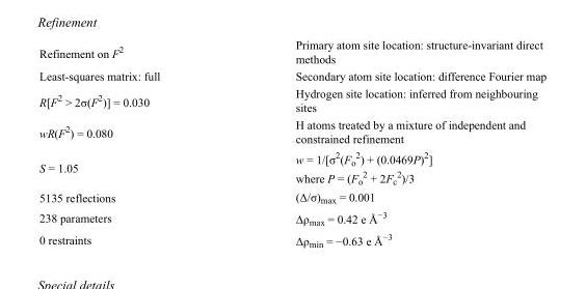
<table><tbody><tr><td>Refinement on F<sup>2</sup></td><td>Primary atom site location: structure-invariant direct methods</td></tr><tr><td>Least-squares matrix: full</td><td>Secondary atom site location: difference Fourier map</td></tr><tr><td>R[F<sup>2</sup> &gt; 2σ(F<sup>2</sup>)] = 0.030</td><td>Hydrogen site location: inferred from neighbouring sites</td></tr><tr><td>wR(F<sup>2</sup>) = 0.080</td><td>H atoms treated by a mixture of independent and constrained refinement</td></tr><tr><td>S = 1.05</td><td>w = 1/[σ<sup>2</sup>(F<sub>o</sub> <sup>2</sup>) + (0.0469P)<sup>2</sup>] where P = (F<sub>o</sub> <sup>2</sup> + 2F<sub>c</sub> <sup>2</sup>)/3</td></tr><tr><td>5135 reflections</td><td>(Δ/σ)<sub>max</sub> = 0.001</td></tr><tr><td>238 parameters</td><td>Δρ<sub>max</sub> = 0.42 e Å<sup>−3</sup></td></tr><tr><td>0 restraints</td><td>Δρ<sub>min</sub> = −0.63 e Å<sup>−3</sup></td></tr></tbody></table>